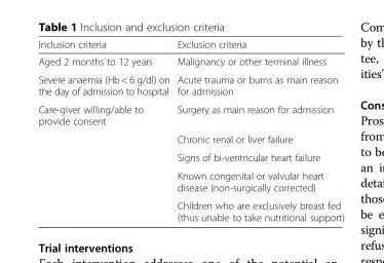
<table><thead><tr><td>Inclusion criteria</td><td>Exclusion criteria</td></tr></thead><tbody><tr><td>Aged 2 months to 12 years</td><td>Malignancy or other terminal illness</td></tr><tr><td>Severe anaemia (Hb &lt; 6 g/dl) on the day of admission to hospital</td><td>Acute trauma or burns as main reason for admission</td></tr><tr><td rowspan="5">Care-giver willing/able to provide consent</td><td>Surgery as main reason for admission</td></tr><tr><td>Chronic renal or liver failure</td></tr><tr><td>Signs of bi-ventricular heart failure</td></tr><tr><td>Known congenital or valvular heart disease (non-surgically corrected)</td></tr><tr><td>Children who are exclusively breast fed (thus unable to take nutritional support)</td></tr></tbody></table>